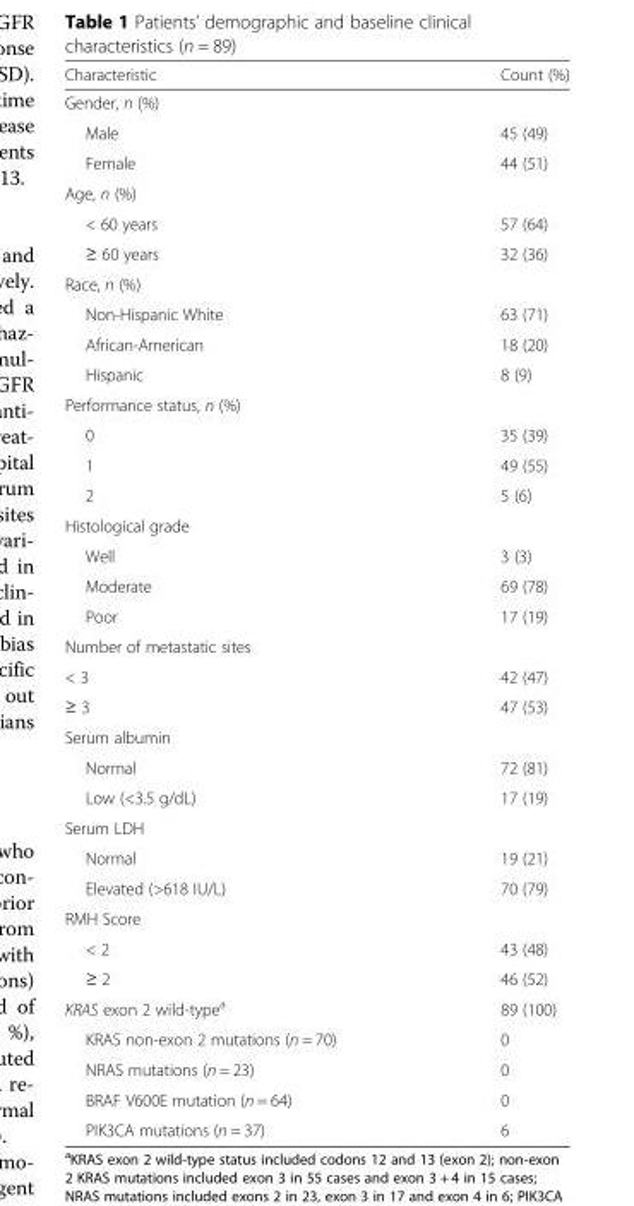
<table><thead><tr><td>Characteristic</td><td>Count (%)</td></tr></thead><tbody><tr><td colspan="2">Gender, n (%)</td></tr><tr><td>Male</td><td>45 (49)</td></tr><tr><td>Female</td><td>44 (51)</td></tr><tr><td colspan="2">Age, n (%)</td></tr><tr><td>&lt; 60 years</td><td>57 (64)</td></tr><tr><td>≥ 60 years</td><td>32 (36)</td></tr><tr><td colspan="2">Race, n (%)</td></tr><tr><td>Non-Hispanic White</td><td>63 (71)</td></tr><tr><td>African-American</td><td>18 (20)</td></tr><tr><td>Hispanic</td><td>8 (9)</td></tr><tr><td colspan="2">Performance status, n (%)</td></tr><tr><td>0</td><td>35 (39)</td></tr><tr><td>1</td><td>49 (55)</td></tr><tr><td>2</td><td>5 (6)</td></tr><tr><td colspan="2">Histological grade</td></tr><tr><td>Well</td><td>3 (3)</td></tr><tr><td>Moderate</td><td>69 (78)</td></tr><tr><td>Poor</td><td>17 (19)</td></tr><tr><td colspan="2">Number of metastatic sites</td></tr><tr><td>&lt; 3</td><td>42 (47)</td></tr><tr><td>≥ 3</td><td>47 (53)</td></tr><tr><td colspan="2">Serum albumin</td></tr><tr><td>Normal</td><td>72 (81)</td></tr><tr><td>Low (&lt;3.5 g/dL)</td><td>17 (19)</td></tr><tr><td colspan="2">Serum LDH</td></tr><tr><td>Normal</td><td>19 (21)</td></tr><tr><td>Elevated (&gt;618 IU/L)</td><td>70 (79)</td></tr><tr><td colspan="2">RMH Score</td></tr><tr><td>&lt; 2</td><td>43 (48)</td></tr><tr><td>≥ 2</td><td>46 (52)</td></tr><tr><td>KRAS exon 2 wild-type<sup>a</sup></td><td>89 (100)</td></tr><tr><td>KRAS non-exon 2 mutations (n = 70)</td><td>0</td></tr><tr><td>NRAS mutations (n = 23)</td><td>0</td></tr><tr><td>BRAF V600E mutation (n = 64)</td><td>0</td></tr><tr><td>PIK3CA mutations (n = 37)</td><td>6</td></tr></tbody></table>